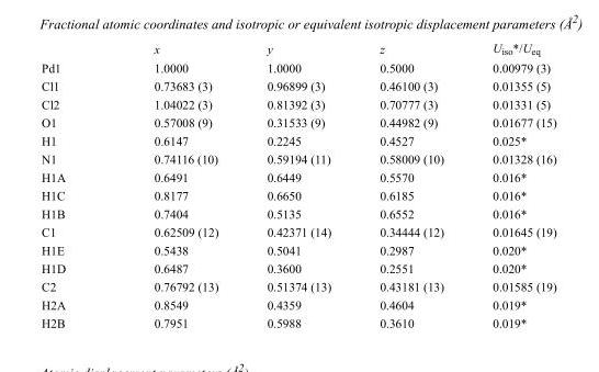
<table><thead><tr><td></td><td>x</td><td>y</td><td>z</td><td>U<sub>iso</sub>*/U<sub>eq</sub></td></tr></thead><tbody><tr><td>Pd1</td><td>1.0000</td><td>1.0000</td><td>0.5000</td><td>0.00979 (3)</td></tr><tr><td>Cl1</td><td>0.73683 (3)</td><td>0.96899 (3)</td><td>0.46100 (3)</td><td>0.01355 (5)</td></tr><tr><td>Cl2</td><td>1.04022 (3)</td><td>0.81392 (3)</td><td>0.70777 (3)</td><td>0.01331 (5)</td></tr><tr><td>O1</td><td>0.57008 (9)</td><td>0.31533 (9)</td><td>0.44982 (9)</td><td>0.01677 (15)</td></tr><tr><td>H1</td><td>0.6147</td><td>0.2245</td><td>0.4527</td><td>0.025*</td></tr><tr><td>N1</td><td>0.74116 (10)</td><td>0.59194 (11)</td><td>0.58009 (10)</td><td>0.01328 (16)</td></tr><tr><td>H1A</td><td>0.6491</td><td>0.6449</td><td>0.5570</td><td>0.016*</td></tr><tr><td>H1C</td><td>0.8177</td><td>0.6650</td><td>0.6185</td><td>0.016*</td></tr><tr><td>H1B</td><td>0.7404</td><td>0.5135</td><td>0.6552</td><td>0.016*</td></tr><tr><td>C1</td><td>0.62509 (12)</td><td>0.42371 (14)</td><td>0.34444 (12)</td><td>0.01645 (19)</td></tr><tr><td>H1E</td><td>0.5438</td><td>0.5041</td><td>0.2987</td><td>0.020*</td></tr><tr><td>H1D</td><td>0.6487</td><td>0.3600</td><td>0.2551</td><td>0.020*</td></tr><tr><td>C2</td><td>0.76792 (13)</td><td>0.51374 (13)</td><td>0.43181 (13)</td><td>0.01585 (19)</td></tr><tr><td>H2A</td><td>0.8549</td><td>0.4359</td><td>0.4604</td><td>0.019*</td></tr><tr><td>H2B</td><td>0.7951</td><td>0.5988</td><td>0.3610</td><td>0.019*</td></tr></tbody></table>